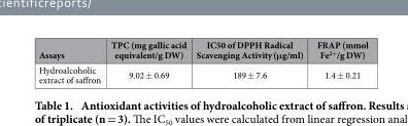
<table><thead><tr><td>Assays</td><td>TPC (mg gallic acid equivalent/g DW)</td><td>IC50 of DPPH Radical Scavenging Activity (μg/ml)</td><td>FRAP (mmol Fe<sup>2+</sup>/g DW)</td></tr></thead><tbody><tr><td>Hydroalcoholic extract of saffron</td><td>9.02 ± 0.69</td><td>189 ± 7.6</td><td>1.4 ± 0.21</td></tr></tbody></table>